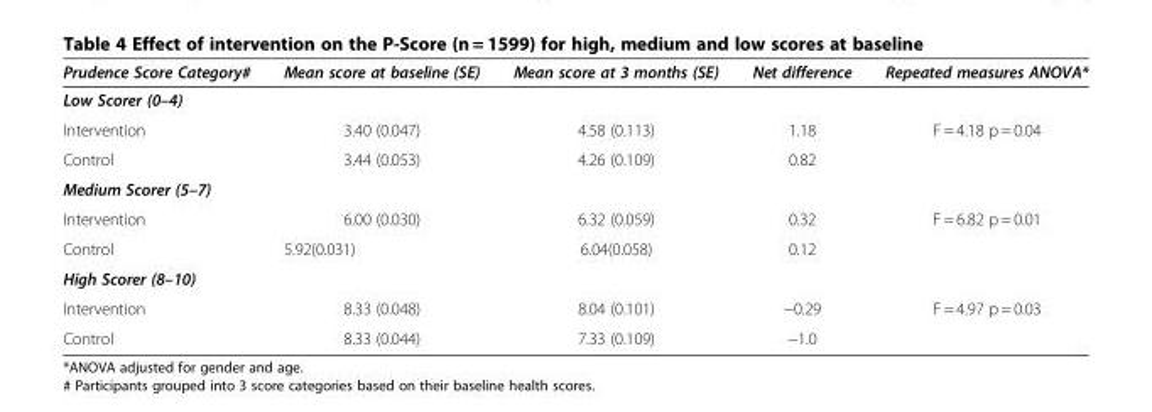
<table><thead><tr><td>Prudence Score Category#</td><td>Mean score at baseline (SE)</td><td>Mean score at 3 months (SE)</td><td>Net difference</td><td>Repeated measures ANOVA*</td></tr></thead><tbody><tr><td colspan="5">Low Scorer (0–4)</td></tr><tr><td>Intervention</td><td>3.40 (0.047)</td><td>4.58 (0.113)</td><td>1.18</td><td rowspan="2">F = 4.18 p = 0.04</td></tr><tr><td>Control</td><td>3.44 (0.053)</td><td>4.26 (0.109)</td><td>0.82</td></tr><tr><td colspan="5">Medium Scorer (5–7)</td></tr><tr><td>Intervention</td><td>6.00 (0.030)</td><td>6.32 (0.059)</td><td>0.32</td><td rowspan="2">F = 6.82 p = 0.01</td></tr><tr><td>Control</td><td>5.92(0.031)</td><td>6.04(0.058)</td><td>0.12</td></tr><tr><td colspan="5">High Scorer (8–10)</td></tr><tr><td>Intervention</td><td>8.33 (0.048)</td><td>8.04 (0.101)</td><td>−0.29</td><td>F = 4.97 p = 0.03</td></tr><tr><td>Control</td><td>8.33 (0.044)</td><td>7.33 (0.109)</td><td>−1.0</td><td></td></tr></tbody></table>